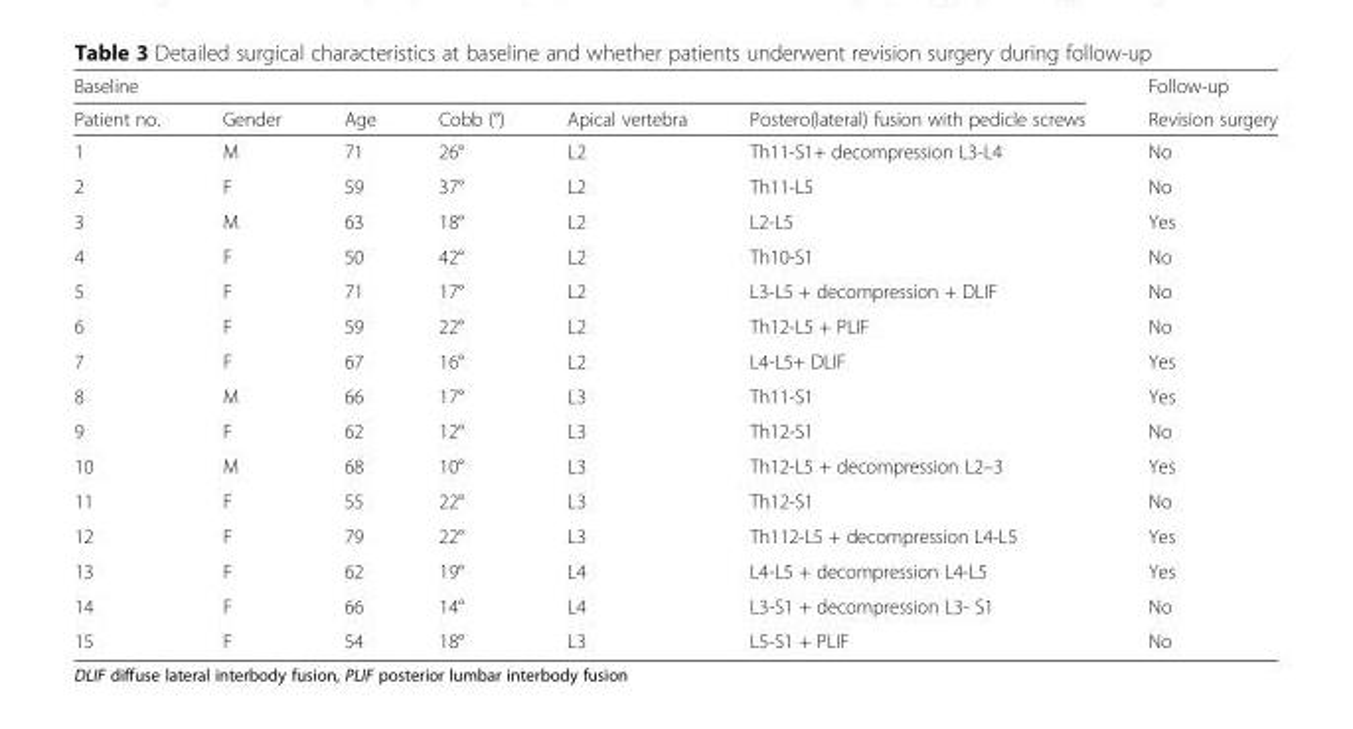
<table><thead><tr><td colspan="6">Baseline</td><td rowspan="2">Follow-up Revision surgery</td></tr><tr><td>Patient no.</td><td>Gender</td><td>Age</td><td>Cobb (°)</td><td>Apical vertebra</td><td>Postero(lateral) fusion with pedicle screws</td></tr></thead><tbody><tr><td>1</td><td>M</td><td>71</td><td>26°</td><td>L2</td><td>Th11-S1+ decompression L3-L4</td><td>No</td></tr><tr><td>2</td><td>F</td><td>59</td><td>37°</td><td>L2</td><td>Th11-L5</td><td>No</td></tr><tr><td>3</td><td>M</td><td>63</td><td>18°</td><td>L2</td><td>L2-L5</td><td>Yes</td></tr><tr><td>4</td><td>F</td><td>50</td><td>42°</td><td>L2</td><td>Th10-S1</td><td>No</td></tr><tr><td>5</td><td>F</td><td>71</td><td>17°</td><td>L2</td><td>L3-L5 + decompression + DLIF</td><td>No</td></tr><tr><td>6</td><td>F</td><td>59</td><td>22°</td><td>L2</td><td>Th12-L5 + PLIF</td><td>No</td></tr><tr><td>7</td><td>F</td><td>67</td><td>16°</td><td>L2</td><td>L4-L5+ DLIF</td><td>Yes</td></tr><tr><td>8</td><td>M</td><td>66</td><td>17°</td><td>L3</td><td>Th11-S1</td><td>Yes</td></tr><tr><td>9</td><td>F</td><td>62</td><td>12°</td><td>L3</td><td>Th12-S1</td><td>No</td></tr><tr><td>10</td><td>M</td><td>68</td><td>10°</td><td>L3</td><td>Th12-L5 + decompression L2–3</td><td>Yes</td></tr><tr><td>11</td><td>F</td><td>55</td><td>22°</td><td>L3</td><td>Th12-S1</td><td>No</td></tr><tr><td>12</td><td>F</td><td>79</td><td>22°</td><td>L3</td><td>Th112-L5 + decompression L4-L5</td><td>Yes</td></tr><tr><td>13</td><td>F</td><td>62</td><td>19°</td><td>L4</td><td>L4-L5 + decompression L4-L5</td><td>Yes</td></tr><tr><td>14</td><td>F</td><td>66</td><td>14°</td><td>L4</td><td>L3-S1 + decompression L3- S1</td><td>No</td></tr><tr><td>15</td><td>F</td><td>54</td><td>18°</td><td>L3</td><td>L5-S1 + PLIF</td><td>No</td></tr></tbody></table>